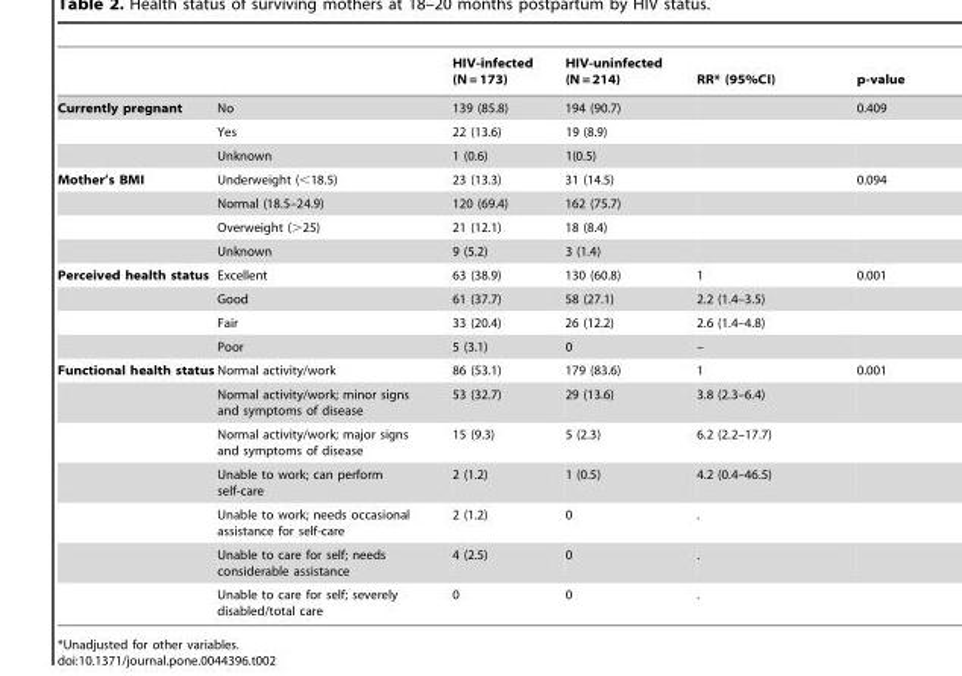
<table><thead><tr><td></td><td></td><td>HIV-infected (N = 173)</td><td>HIV-uninfected (N = 214)</td><td>RR* (95%CI)</td><td>p-value</td></tr></thead><tbody><tr><td rowspan="3">Currently pregnant</td><td>No</td><td>139 (85.8)</td><td>194 (90.7)</td><td></td><td>0.409</td></tr><tr><td>Yes</td><td>22 (13.6)</td><td>19 (8.9)</td><td></td><td></td></tr><tr><td>Unknown</td><td>1 (0.6)</td><td>1(0.5)</td><td></td><td></td></tr><tr><td rowspan="4">Mother’s BMI</td><td>Underweight (&lt;18.5)</td><td>23 (13.3)</td><td>31 (14.5)</td><td></td><td>0.094</td></tr><tr><td>Normal (18.5–24.9)</td><td>120 (69.4)</td><td>162 (75.7)</td><td></td><td></td></tr><tr><td>Overweight (&gt;25)</td><td>21 (12.1)</td><td>18 (8.4)</td><td></td><td></td></tr><tr><td>Unknown</td><td>9 (5.2)</td><td>3 (1.4)</td><td></td><td></td></tr><tr><td rowspan="4">Perceived health status</td><td>Excellent</td><td>63 (38.9)</td><td>130 (60.8)</td><td>1</td><td>0.001</td></tr><tr><td>Good</td><td>61 (37.7)</td><td>58 (27.1)</td><td>2.2 (1.4–3.5)</td><td></td></tr><tr><td>Fair</td><td>33 (20.4)</td><td>26 (12.2)</td><td>2.6 (1.4–4.8)</td><td></td></tr><tr><td>Poor</td><td>5 (3.1)</td><td>0</td><td>–</td><td></td></tr><tr><td rowspan="7">Functional health status</td><td>Normal activity/work</td><td>86 (53.1)</td><td>179 (83.6)</td><td>1</td><td>0.001</td></tr><tr><td>Normal activity/work; minor signs and symptoms of disease</td><td>53 (32.7)</td><td>29 (13.6)</td><td>3.8 (2.3–6.4)</td><td></td></tr><tr><td>Normal activity/work; major signs and symptoms of disease</td><td>15 (9.3)</td><td>5 (2.3)</td><td>6.2 (2.2–17.7)</td><td></td></tr><tr><td>Unable to work; can perform self-care</td><td>2 (1.2)</td><td>1 (0.5)</td><td>4.2 (0.4–46.5)</td><td></td></tr><tr><td>Unable to work; needs occasional assistance for self-care</td><td>2 (1.2)</td><td>0</td><td>.</td><td></td></tr><tr><td>Unable to care for self; needs considerable assistance</td><td>4 (2.5)</td><td>0</td><td>.</td><td></td></tr><tr><td>Unable to care for self; severely disabled/total care</td><td>0</td><td>0</td><td>.</td><td></td></tr></tbody></table>